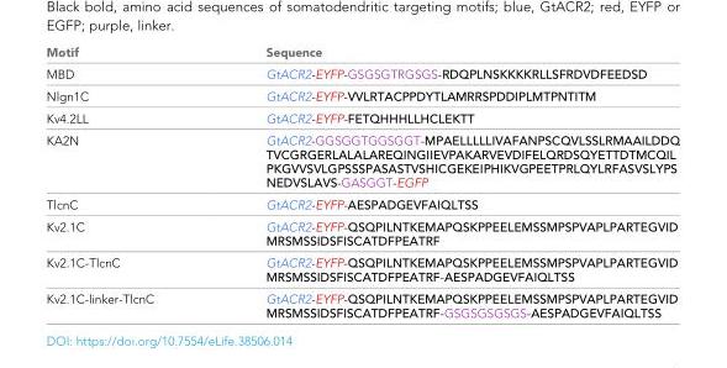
<table><thead><tr><td>Motif</td><td>Sequence</td></tr></thead><tbody><tr><td>MBD</td><td>GtACR2-EYFP-GSGSGTRGSGS-RDQPLNSKKKKRLLSFRDVDFEEDSD</td></tr><tr><td>Nlgn1C</td><td>GtACR2-EYFP-VVLRTACPPDYTLAMRRSPDDIPLMTPNTITM</td></tr><tr><td>Kv4.2LL</td><td>GtACR2-EYFP-FETQHHHLLHCLEKTT</td></tr><tr><td>KA2N</td><td>GtACR2-GGSGGTGGSGGT-MPAELLLLLIVAFANPSCQVLSSLRMAAILDDQ TVCGRGERLALALAREQINGIIEVPAKARVEVDIFELQRDSQYETTDTMCQIL PKGVVSVLGPSSSPASASTVSHICGEKEIPHIKVGPEETPRLQYLRFASVSLYPS NEDVSLAVS-GASGGT-EGFP</td></tr><tr><td>TlcnC</td><td>GtACR2-EYFP-AESPADGEVFAIQLTSS</td></tr><tr><td>Kv2.1C</td><td>GtACR2-EYFP-QSQPILNTKEMAPQSKPPEELEMSSMPSPVAPLPARTEGVID MRSMSSIDSFISCATDFPEATRF</td></tr><tr><td>Kv2.1C-TlcnC</td><td>GtACR2-EYFP-QSQPILNTKEMAPQSKPPEELEMSSMPSPVAPLPARTEGVID MRSMSSIDSFISCATDFPEATRF-AESPADGEVFAIQLTSS</td></tr><tr><td>Kv2.1C-linker-TlcnC</td><td>GtACR2-EYFP-QSQPILNTKEMAPQSKPPEELEMSSMPSPVAPLPARTEGVID MRSMSSIDSFISCATDFPEATRF-GSGSGSGSGS-AESPADGEVFAIQLTSS</td></tr></tbody></table>